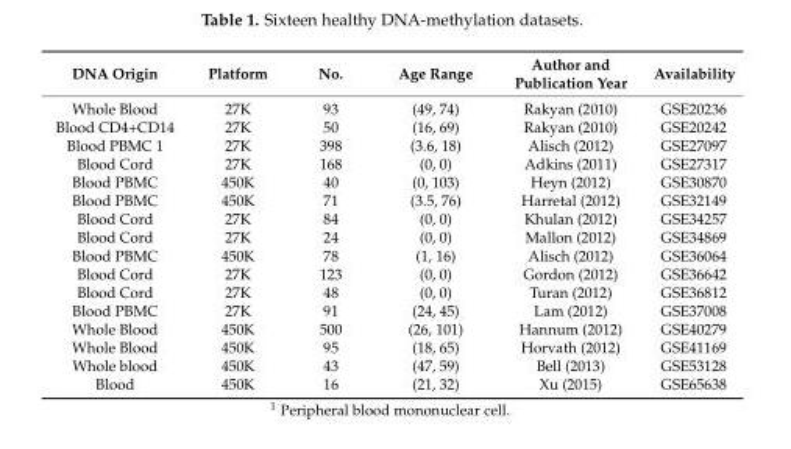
<table><thead><tr><td>DNA Origin</td><td>Platform</td><td>No.</td><td>Age Range</td><td>Author and Publication Year</td><td>Availability</td></tr></thead><tbody><tr><td>Whole Blood</td><td>27K</td><td>93</td><td>(49, 74)</td><td>Rakyan (2010)</td><td>GSE20236</td></tr><tr><td>Blood CD4+CD14</td><td>27K</td><td>50</td><td>(16, 69)</td><td>Rakyan (2010)</td><td>GSE20242</td></tr><tr><td>Blood PBMC 1</td><td>27K</td><td>398</td><td>(3.6, 18)</td><td>Alisch (2012)</td><td>GSE27097</td></tr><tr><td>Blood Cord</td><td>27K</td><td>168</td><td>(0, 0)</td><td>Adkins (2011)</td><td>GSE27317</td></tr><tr><td>Blood PBMC</td><td>450K</td><td>40</td><td>(0, 103)</td><td>Heyn (2012)</td><td>GSE30870</td></tr><tr><td>Blood PBMC</td><td>450K</td><td>71</td><td>(3.5, 76)</td><td>Harretal (2012)</td><td>GSE32149</td></tr><tr><td>Blood Cord</td><td>27K</td><td>84</td><td>(0, 0)</td><td>Khulan (2012)</td><td>GSE34257</td></tr><tr><td>Blood Cord</td><td>27K</td><td>24</td><td>(0, 0)</td><td>Mallon (2012)</td><td>GSE34869</td></tr><tr><td>Blood PBMC</td><td>450K</td><td>78</td><td>(1, 16)</td><td>Alisch (2012)</td><td>GSE36064</td></tr><tr><td>Blood Cord</td><td>27K</td><td>123</td><td>(0, 0)</td><td>Gordon (2012)</td><td>GSE36642</td></tr><tr><td>Blood Cord</td><td>27K</td><td>48</td><td>(0, 0)</td><td>Turan (2012)</td><td>GSE36812</td></tr><tr><td>Blood PBMC</td><td>27K</td><td>91</td><td>(24, 45)</td><td>Lam (2012)</td><td>GSE37008</td></tr><tr><td>Whole Blood</td><td>450K</td><td>500</td><td>(26, 101)</td><td>Hannum (2012)</td><td>GSE40279</td></tr><tr><td>Whole Blood</td><td>450K</td><td>95</td><td>(18, 65)</td><td>Horvath (2012)</td><td>GSE41169</td></tr><tr><td>Whole blood</td><td>450K</td><td>43</td><td>(47, 59)</td><td>Bell (2013)</td><td>GSE53128</td></tr><tr><td>Blood</td><td>450K</td><td>16</td><td>(21, 32)</td><td>Xu (2015)</td><td>GSE65638</td></tr></tbody></table>